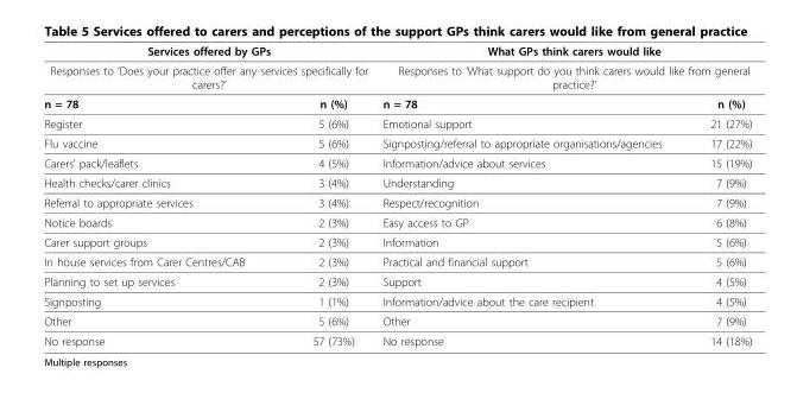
<table><thead><tr><td rowspan="2" colspan="2">Services offered by GPs Responses to ‘Does your practice offer any services specifically for carers?’</td><td rowspan="2" colspan="2">What GPs think carers would like Responses to ‘What support do you think carers would like from general practice?’</td></tr><tr></tr><tr><td>n = 78</td><td>n (%)</td><td>n = 78</td><td>n (%)</td></tr></thead><tbody><tr><td>Register</td><td>5 (6%)</td><td>Emotional support</td><td>21 (27%)</td></tr><tr><td>Flu vaccine</td><td>5 (6%)</td><td>Signposting/referral to appropriate organisations/agencies</td><td>17 (22%)</td></tr><tr><td>Carers’ pack/leaflets</td><td>4 (5%)</td><td>Information/advice about services</td><td>15 (19%)</td></tr><tr><td>Health checks/carer clinics</td><td>3 (4%)</td><td>Understanding</td><td>7 (9%)</td></tr><tr><td>Referral to appropriate services</td><td>3 (4%)</td><td>Respect/recognition</td><td>7 (9%)</td></tr><tr><td>Notice boards</td><td>2 (3%)</td><td>Easy access to GP</td><td>6 (8%)</td></tr><tr><td>Carer support groups</td><td>2 (3%)</td><td>Information</td><td>5 (6%)</td></tr><tr><td>In house services from Carer Centres/CAB</td><td>2 (3%)</td><td>Practical and financial support</td><td>5 (6%)</td></tr><tr><td>Planning to set up services</td><td>2 (3%)</td><td>Support</td><td>4 (5%)</td></tr><tr><td>Signposting</td><td>1 (1%)</td><td>Information/advice about the care recipient</td><td>4 (5%)</td></tr><tr><td>Other</td><td>5 (6%)</td><td>Other</td><td>7 (9%)</td></tr><tr><td>No response</td><td>57 (73%)</td><td>No response</td><td>14 (18%)</td></tr></tbody></table>